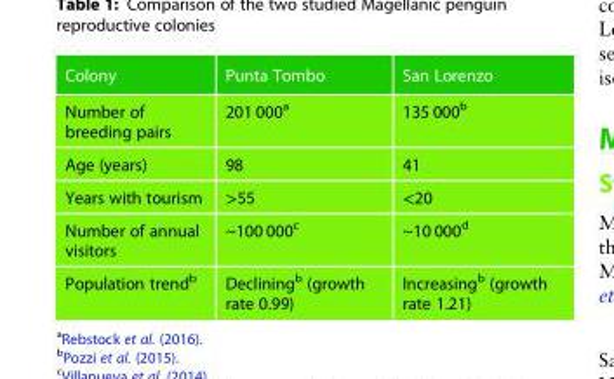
<table><thead><tr><td>Colony</td><td>Punta Tombo</td><td>San Lorenzo</td></tr></thead><tbody><tr><td>Number of breeding pairs</td><td>201 000<sup>a</sup></td><td>135 000<sup>b</sup></td></tr><tr><td>Age (years)</td><td>98</td><td>41</td></tr><tr><td>Years with tourism</td><td>&gt;55</td><td>&lt;20</td></tr><tr><td>Number of annual visitors</td><td>~100 000<sup>c</sup></td><td>~10 000<sup>d</sup></td></tr><tr><td>Population trend<sup>b</sup></td><td>Declining<sup>b</sup> (growth rate 0.99)</td><td>Increasing<sup>b</sup> (growth rate 1.21)</td></tr></tbody></table>